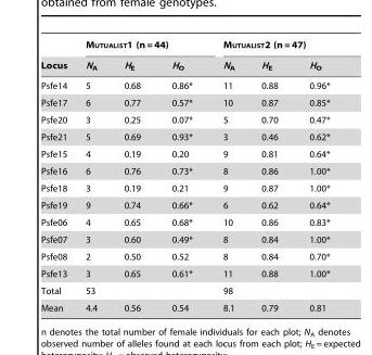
<table><thead><tr><td rowspan="2">Locus</td><td colspan="3">MUTUALIST1 (n = 44)</td><td colspan="3">MUTUALIST2 (n = 47)</td></tr><tr><td>N<sub>A</sub></td><td>H<sub>E</sub></td><td>H<sub>O</sub></td><td>N<sub>A</sub></td><td>H<sub>E</sub></td><td>H<sub>O</sub></td></tr></thead><tbody><tr><td>Psfe14</td><td>5</td><td>0.68</td><td>0.86*</td><td>11</td><td>0.88</td><td>0.96*</td></tr><tr><td>Psfe17</td><td>6</td><td>0.77</td><td>0.57*</td><td>10</td><td>0.87</td><td>0.85*</td></tr><tr><td>Psfe20</td><td>3</td><td>0.25</td><td>0.07*</td><td>5</td><td>0.70</td><td>0.47*</td></tr><tr><td>Psfe21</td><td>5</td><td>0.69</td><td>0.93*</td><td>3</td><td>0.46</td><td>0.62*</td></tr><tr><td>Psfe15</td><td>4</td><td>0.19</td><td>0.20</td><td>9</td><td>0.81</td><td>0.64*</td></tr><tr><td>Psfe16</td><td>6</td><td>0.76</td><td>0.73*</td><td>8</td><td>0.86</td><td>1.00*</td></tr><tr><td>Psfe18</td><td>3</td><td>0.19</td><td>0.21</td><td>9</td><td>0.87</td><td>1.00*</td></tr><tr><td>Psfe19</td><td>9</td><td>0.74</td><td>0.66*</td><td>6</td><td>0.62</td><td>0.64*</td></tr><tr><td>Psfe06</td><td>4</td><td>0.65</td><td>0.68*</td><td>10</td><td>0.86</td><td>0.83*</td></tr><tr><td>Psfe07</td><td>3</td><td>0.60</td><td>0.49*</td><td>8</td><td>0.84</td><td>1.00*</td></tr><tr><td>Psfe08</td><td>2</td><td>0.50</td><td>0.52</td><td>8</td><td>0.84</td><td>0.70*</td></tr><tr><td>Psfe13</td><td>3</td><td>0.65</td><td>0.61*</td><td>11</td><td>0.88</td><td>1.00*</td></tr><tr><td>Total</td><td>53</td><td></td><td></td><td>98</td><td></td><td></td></tr><tr><td>Mean</td><td>4.4</td><td>0.56</td><td>0.54</td><td>8.1</td><td>0.79</td><td>0.81</td></tr></tbody></table>